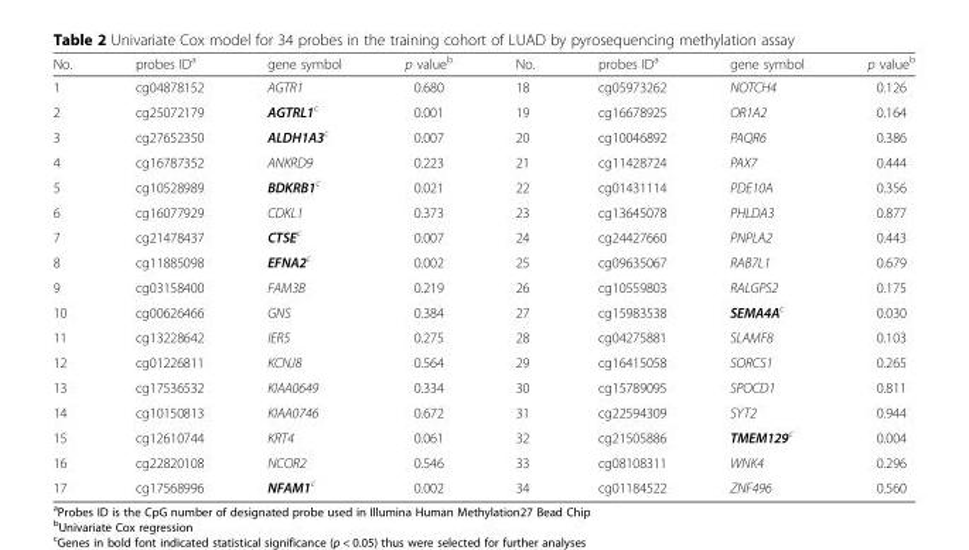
<table><thead><tr><td>No.</td><td>probes ID<sup>a</sup></td><td>gene symbol</td><td>p value<sup>b</sup></td><td>No.</td><td>probes ID<sup>a</sup></td><td>gene symbol</td><td>p value<sup>b</sup></td></tr></thead><tbody><tr><td>1</td><td>cg04878152</td><td>AGTR1</td><td>0.680</td><td>18</td><td>cg05973262</td><td>NOTCH4</td><td>0.126</td></tr><tr><td>2</td><td>cg25072179</td><td>AGTRL1<sup>c</sup></td><td>0.001</td><td>19</td><td>cg16678925</td><td>OR1A2</td><td>0.164</td></tr><tr><td>3</td><td>cg27652350</td><td>ALDH1A3<sup>c</sup></td><td>0.007</td><td>20</td><td>cg10046892</td><td>PAQR6</td><td>0.386</td></tr><tr><td>4</td><td>cg16787352</td><td>ANKRD9</td><td>0.223</td><td>21</td><td>cg11428724</td><td>PAX7</td><td>0.444</td></tr><tr><td>5</td><td>cg10528989</td><td>BDKRB1<sup>c</sup></td><td>0.021</td><td>22</td><td>cg01431114</td><td>PDE10A</td><td>0.356</td></tr><tr><td>6</td><td>cg16077929</td><td>CDKL1</td><td>0.373</td><td>23</td><td>cg13645078</td><td>PHLDA3</td><td>0.877</td></tr><tr><td>7</td><td>cg21478437</td><td>CTSE<sup>c</sup></td><td>0.007</td><td>24</td><td>cg24427660</td><td>PNPLA2</td><td>0.443</td></tr><tr><td>8</td><td>cg11885098</td><td>EFNA2<sup>c</sup></td><td>0.002</td><td>25</td><td>cg09635067</td><td>RAB7L1</td><td>0.679</td></tr><tr><td>9</td><td>cg03158400</td><td>FAM3B</td><td>0.219</td><td>26</td><td>cg10559803</td><td>RALGPS2</td><td>0.175</td></tr><tr><td>10</td><td>cg00626466</td><td>GNS</td><td>0.384</td><td>27</td><td>cg15983538</td><td>SEMA4A<sup>c</sup></td><td>0.030</td></tr><tr><td>11</td><td>cg13228642</td><td>IER5</td><td>0.275</td><td>28</td><td>cg04275881</td><td>SLAMF8</td><td>0.103</td></tr><tr><td>12</td><td>cg01226811</td><td>KCNJ8</td><td>0.564</td><td>29</td><td>cg16415058</td><td>SORCS1</td><td>0.265</td></tr><tr><td>13</td><td>cg17536532</td><td>KIAA0649</td><td>0.334</td><td>30</td><td>cg15789095</td><td>SPOCD1</td><td>0.811</td></tr><tr><td>14</td><td>cg10150813</td><td>KIAA0746</td><td>0.672</td><td>31</td><td>cg22594309</td><td>SYT2</td><td>0.944</td></tr><tr><td>15</td><td>cg12610744</td><td>KRT4</td><td>0.061</td><td>32</td><td>cg21505886</td><td>TMEM129<sup>c</sup></td><td>0.004</td></tr><tr><td>16</td><td>cg22820108</td><td>NCOR2</td><td>0.546</td><td>33</td><td>cg08108311</td><td>WNK4</td><td>0.296</td></tr><tr><td>17</td><td>cg17568996</td><td>NFAM1<sup>c</sup></td><td>0.002</td><td>34</td><td>cg01184522</td><td>ZNF496</td><td>0.560</td></tr></tbody></table>